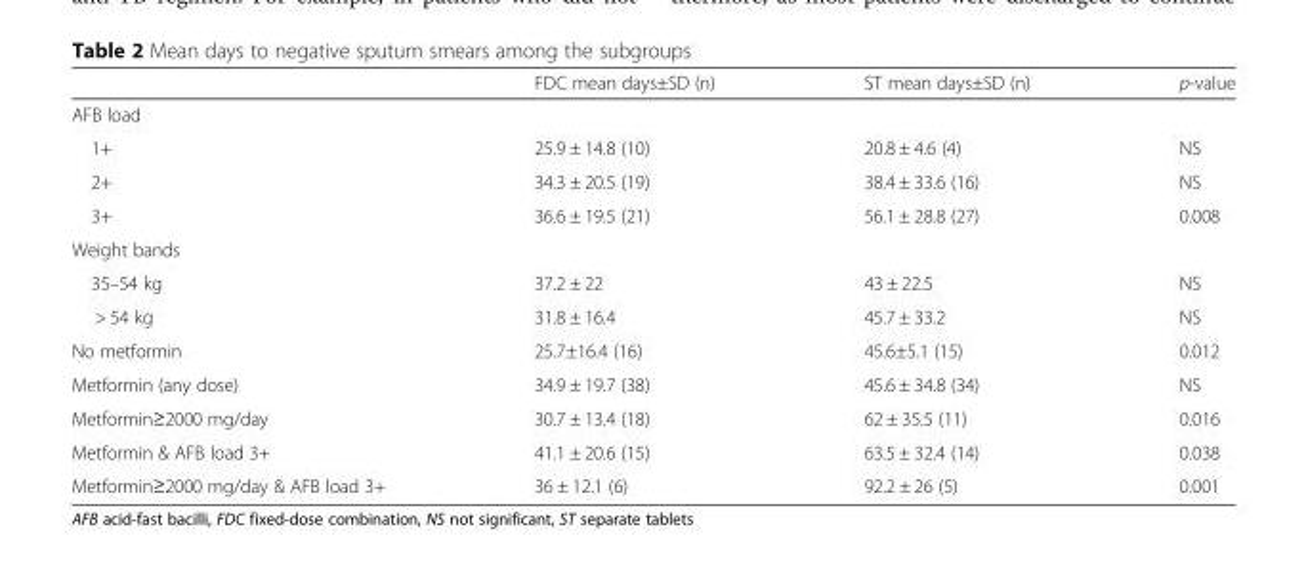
<table><thead><tr><td></td><td>FDC mean days±SD (n)</td><td>ST mean days±SD (n)</td><td>p-value</td></tr></thead><tbody><tr><td colspan="4">AFB load</td></tr><tr><td>1+</td><td>25.9 ± 14.8 (10)</td><td>20.8 ± 4.6 (4)</td><td>NS</td></tr><tr><td>2+</td><td>34.3 ± 20.5 (19)</td><td>38.4 ± 33.6 (16)</td><td>NS</td></tr><tr><td>3+</td><td>36.6 ± 19.5 (21)</td><td>56.1 ± 28.8 (27)</td><td>0.008</td></tr><tr><td colspan="4">Weight bands</td></tr><tr><td>35–54 kg</td><td>37.2 ± 22</td><td>43 ± 22.5</td><td>NS</td></tr><tr><td>&gt; 54 kg</td><td>31.8 ± 16.4</td><td>45.7 ± 33.2</td><td>NS</td></tr><tr><td>No metformin</td><td>25.7±16.4 (16)</td><td>45.6±5.1 (15)</td><td>0.012</td></tr><tr><td>Metformin (any dose)</td><td>34.9 ± 19.7 (38)</td><td>45.6 ± 34.8 (34)</td><td>NS</td></tr><tr><td>Metformin≥2000 mg/day</td><td>30.7 ± 13.4 (18)</td><td>62 ± 35.5 (11)</td><td>0.016</td></tr><tr><td>Metformin &amp; AFB load 3+</td><td>41.1 ± 20.6 (15)</td><td>63.5 ± 32.4 (14)</td><td>0.038</td></tr><tr><td>Metformin≥2000 mg/day &amp; AFB load 3+</td><td>36 ± 12.1 (6)</td><td>92.2 ± 26 (5)</td><td>0.001</td></tr></tbody></table>